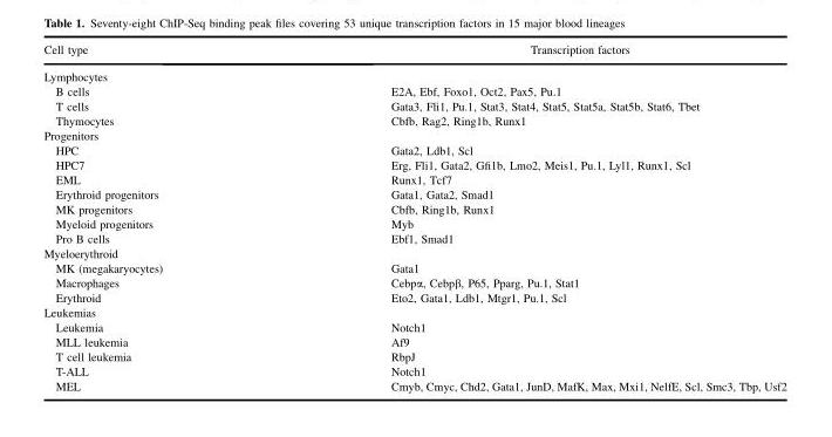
<table><thead><tr><td>Cell type</td><td>Transcription factors</td></tr></thead><tbody><tr><td colspan="2">Lymphocytes</td></tr><tr><td>B cells</td><td>E2A, Ebf, Foxo1, Oct2, Pax5, Pu.1</td></tr><tr><td>T cells</td><td>Gata3, Fli1, Pu.1, Stat3, Stat4, Stat5, Stat5a, Stat5b, Stat6, Tbet</td></tr><tr><td>Thymocytes</td><td>Cbfb, Rag2, Ring1b, Runx1</td></tr><tr><td colspan="2">Progenitors</td></tr><tr><td>HPC</td><td>Gata2, Ldb1, Scl</td></tr><tr><td>HPC7</td><td>Erg, Fli1, Gata2, Gfi1b, Lmo2, Meis1, Pu.1, Lyl1, Runx1, Scl</td></tr><tr><td>EML</td><td>Runx1, Tcf7</td></tr><tr><td>Erythroid progenitors</td><td>Gata1, Gata2, Smad1</td></tr><tr><td>MK progenitors</td><td>Cbfb, Ring1b, Runx1</td></tr><tr><td>Myeloid progenitors</td><td>Myb</td></tr><tr><td>Pro B cells</td><td>Ebf1, Smad1</td></tr><tr><td colspan="2">Myeloerythroid</td></tr><tr><td>MK (megakaryocytes)</td><td>Gata1</td></tr><tr><td>Macrophages</td><td>Cebpα, Cebpβ, P65, Pparg, Pu.1, Stat1</td></tr><tr><td>Erythroid</td><td>Eto2, Gata1, Ldb1, Mtgr1, Pu.1, Scl</td></tr><tr><td colspan="2">Leukemias</td></tr><tr><td>Leukemia</td><td>Notch1</td></tr><tr><td>MLL leukemia</td><td>Af9</td></tr><tr><td>T cell leukemia</td><td>RbpJ</td></tr><tr><td>T-ALL</td><td>Notch1</td></tr><tr><td>MEL</td><td>Cmyb, Cmyc, Chd2, Gata1, JunD, MafK, Max, Mxi1, NelfE, Scl, Smc3, Tbp, Usf2</td></tr></tbody></table>